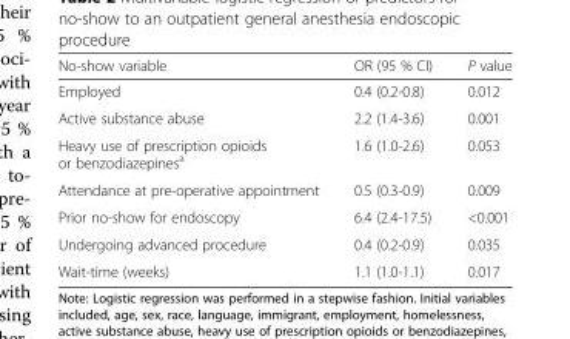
<table><thead><tr><td>No-show variable</td><td>OR (95 % CI)</td><td>P value</td></tr></thead><tbody><tr><td>Employed</td><td>0.4 (0.2-0.8)</td><td>0.012</td></tr><tr><td>Active substance abuse</td><td>2.2 (1.4-3.6)</td><td>0.001</td></tr><tr><td>Heavy use of prescription opioids or benzodiazepines<sup>a</sup></td><td>1.6 (1.0-2.6)</td><td>0.053</td></tr><tr><td>Attendance at pre-operative appointment</td><td>0.5 (0.3-0.9)</td><td>0.009</td></tr><tr><td>Prior no-show for endoscopy</td><td>6.4 (2.4-17.5)</td><td>&lt;0.001</td></tr><tr><td>Undergoing advanced procedure</td><td>0.4 (0.2-0.9)</td><td>0.035</td></tr><tr><td>Wait-time (weeks)</td><td>1.1 (1.0-1.1)</td><td>0.017</td></tr></tbody></table>